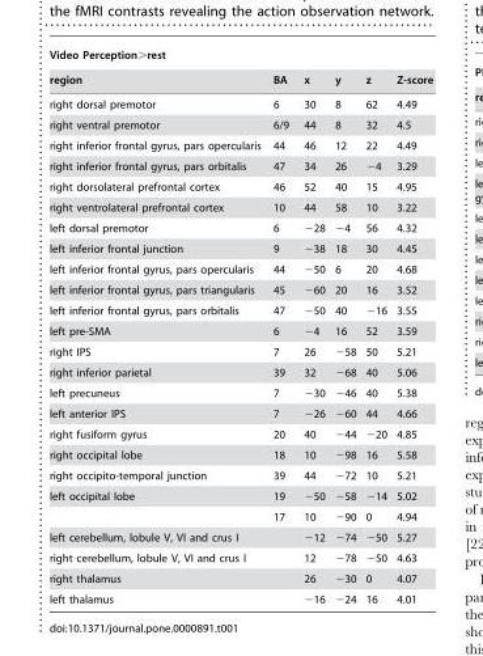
<table><thead><tr><td colspan="6">Video Perception&gt;rest</td></tr><tr><td>region</td><td>BA</td><td>x</td><td>y</td><td>z</td><td>Z-score</td></tr></thead><tbody><tr><td>right dorsal premotor</td><td>6</td><td>30</td><td>8</td><td>62</td><td>4.49</td></tr><tr><td>right ventral premotor</td><td>6/9</td><td>44</td><td>8</td><td>32</td><td>4.5</td></tr><tr><td>right inferior frontal gyrus, pars opercularis</td><td>44</td><td>46</td><td>12</td><td>22</td><td>4.49</td></tr><tr><td>right inferior frontal gyrus, pars orbitalis</td><td>47</td><td>34</td><td>26</td><td>−4</td><td>3.29</td></tr><tr><td>right dorsolateral prefrontal cortex</td><td>46</td><td>52</td><td>40</td><td>15</td><td>4.95</td></tr><tr><td>right ventrolateral prefrontal cortex</td><td>10</td><td>44</td><td>58</td><td>10</td><td>3.22</td></tr><tr><td>left dorsal premotor</td><td>6</td><td>−28</td><td>−4</td><td>56</td><td>4.32</td></tr><tr><td>left inferior frontal junction</td><td>9</td><td>−38</td><td>18</td><td>30</td><td>4.45</td></tr><tr><td>left inferior frontal gyrus, pars opercularis</td><td>44</td><td>−50</td><td>6</td><td>20</td><td>4.68</td></tr><tr><td>left inferior frontal gyrus, pars triangularis</td><td>45</td><td>−60</td><td>20</td><td>16</td><td>3.52</td></tr><tr><td>left inferior frontal gyrus, pars orbitalis</td><td>47</td><td>−50</td><td>40</td><td>−16</td><td>3.55</td></tr><tr><td>left pre-SMA</td><td>6</td><td>−4</td><td>16</td><td>52</td><td>3.59</td></tr><tr><td>right IPS</td><td>7</td><td>26</td><td>−58</td><td>50</td><td>5.21</td></tr><tr><td>right inferior parietal</td><td>39</td><td>32</td><td>−68</td><td>40</td><td>5.06</td></tr><tr><td>left precuneus</td><td>7</td><td>−30</td><td>−46</td><td>40</td><td>5.38</td></tr><tr><td>left anterior IPS</td><td>7</td><td>−26</td><td>−60</td><td>44</td><td>4.66</td></tr><tr><td>right fusiform gyrus</td><td>20</td><td>40</td><td>−44</td><td>−20</td><td>4.85</td></tr><tr><td>right occipital lobe</td><td>18</td><td>10</td><td>−98</td><td>16</td><td>5.58</td></tr><tr><td>right occipito-temporal junction</td><td>39</td><td>44</td><td>−72</td><td>10</td><td>5.21</td></tr><tr><td rowspan="2">left occipital lobe</td><td>19</td><td>−50</td><td>−58</td><td>−14</td><td>5.02</td></tr><tr><td>17</td><td>10</td><td>−90</td><td>0</td><td>4.94</td></tr><tr><td>left cerebellum, lobule V, VI and crus I</td><td></td><td>−12</td><td>−74</td><td>−50</td><td>5.27</td></tr><tr><td>right cerebellum, lobule V, VI and crus I</td><td></td><td>12</td><td>−78</td><td>−50</td><td>4.63</td></tr><tr><td>right thalamus</td><td></td><td>26</td><td>−30</td><td>0</td><td>4.07</td></tr><tr><td>left thalamus</td><td></td><td>−16</td><td>−24</td><td>16</td><td>4.01</td></tr></tbody></table>